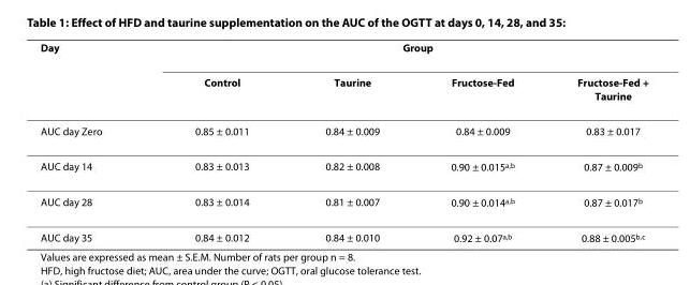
<table><thead><tr><td rowspan="2">Day</td><td colspan="4">Group</td></tr><tr><td>Control</td><td>Taurine</td><td>Fructose-Fed</td><td>Fructose-Fed + Taurine</td></tr></thead><tbody><tr><td>AUC day Zero</td><td>0.85 ± 0.011</td><td>0.84 ± 0.009</td><td>0.84 ± 0.009</td><td>0.83 ± 0.017</td></tr><tr><td>AUC day 14</td><td>0.83 ± 0.013</td><td>0.82 ± 0.008</td><td>0.90 ± 0.015<sup>a,b</sup></td><td>0.87 ± 0.009<sup>b</sup></td></tr><tr><td>AUC day 28</td><td>0.83 ± 0.014</td><td>0.81 ± 0.007</td><td>0.90 ± 0.014<sup>a,b</sup></td><td>0.87 ± 0.017<sup>b</sup></td></tr><tr><td>AUC day 35</td><td>0.84 ± 0.012</td><td>0.84 ± 0.010</td><td>0.92 ± 0.07<sup>a,b</sup></td><td>0.88 ± 0.005<sup>b,c</sup></td></tr></tbody></table>